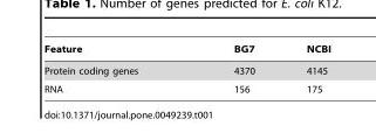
<table><thead><tr><td>Feature</td><td>BG7</td><td>NCBI</td></tr></thead><tbody><tr><td>Protein coding genes</td><td>4370</td><td>4145</td></tr><tr><td>RNA</td><td>156</td><td>175</td></tr></tbody></table>